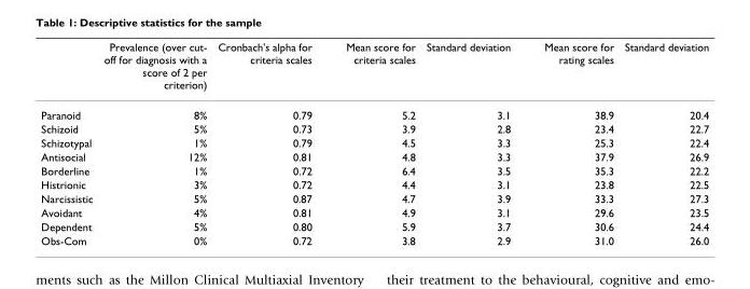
<table><thead><tr><td></td><td>Prevalence (over cut- off for diagnosis with a score of 2 per criterion)</td><td>Cronbach&#x27;s alpha for criteria scales</td><td>Mean score for criteria scales</td><td>Standard deviation</td><td>Mean score for rating scales</td><td>Standard deviation</td></tr></thead><tbody><tr><td>Paranoid</td><td>8%</td><td>0.79</td><td>5.2</td><td>3.1</td><td>38.9</td><td>20.4</td></tr><tr><td>Schizoid</td><td>5%</td><td>0.73</td><td>3.9</td><td>2.8</td><td>23.4</td><td>22.7</td></tr><tr><td>Schizotypal</td><td>1%</td><td>0.79</td><td>4.5</td><td>3.3</td><td>25.3</td><td>22.4</td></tr><tr><td>Antisocial</td><td>12%</td><td>0.81</td><td>4.8</td><td>3.3</td><td>37.9</td><td>26.9</td></tr><tr><td>Borderline</td><td>1%</td><td>0.72</td><td>6.4</td><td>3.5</td><td>35.3</td><td>22.2</td></tr><tr><td>Histrionic</td><td>3%</td><td>0.72</td><td>4.4</td><td>3.1</td><td>23.8</td><td>22.5</td></tr><tr><td>Narcissistic</td><td>5%</td><td>0.87</td><td>4.7</td><td>3.9</td><td>33.3</td><td>27.3</td></tr><tr><td>Avoidant</td><td>4%</td><td>0.81</td><td>4.9</td><td>3.1</td><td>29.6</td><td>23.5</td></tr><tr><td>Dependent</td><td>5%</td><td>0.80</td><td>5.9</td><td>3.7</td><td>30.6</td><td>24.4</td></tr><tr><td>Obs-Com</td><td>0%</td><td>0.72</td><td>3.8</td><td>2.9</td><td>31.0</td><td>26.0</td></tr></tbody></table>